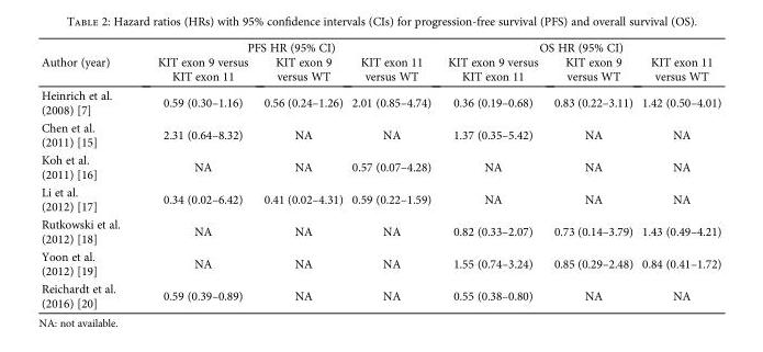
<table><thead><tr><td rowspan="2">Author (year)</td><td colspan="3">PFS HR (95% CI)</td><td colspan="3">OS HR (95% CI)</td></tr><tr><td>KIT exon 9 versus KIT exon 11</td><td>KIT exon 9 versus WT</td><td>KIT exon 11 versus WT</td><td>KIT exon 9 versus KIT exon 11</td><td>KIT exon 9 versus WT</td><td>KIT exon 11 versus WT</td></tr></thead><tbody><tr><td>Heinrich et al. (2008) [7]</td><td>0.59 (0.30–1.16)</td><td>0.56 (0.24–1.26)</td><td>2.01 (0.85–4.74)</td><td>0.36 (0.19–0.68)</td><td>0.83 (0.22–3.11)</td><td>1.42 (0.50–4.01)</td></tr><tr><td>Chen et al. (2011) [15]</td><td>2.31 (0.64–8.32)</td><td>NA</td><td>NA</td><td>1.37 (0.35–5.42)</td><td>NA</td><td>NA</td></tr><tr><td>Koh et al. (2011) [16]</td><td>NA</td><td>NA</td><td>0.57 (0.07–4.28)</td><td>NA</td><td>NA</td><td>NA</td></tr><tr><td>Li et al. (2012) [17]</td><td>0.34 (0.02–6.42)</td><td>0.41 (0.02–4.31)</td><td>0.59 (0.22–1.59)</td><td>NA</td><td>NA</td><td>NA</td></tr><tr><td>Rutkowski et al. (2012) [18]</td><td>NA</td><td>NA</td><td>NA</td><td>0.82 (0.33–2.07)</td><td>0.73 (0.14–3.79)</td><td>1.43 (0.49–4.21)</td></tr><tr><td>Yoon et al. (2012) [19]</td><td>NA</td><td>NA</td><td>NA</td><td>1.55 (0.74–3.24)</td><td>0.85 (0.29–2.48)</td><td>0.84 (0.41–1.72)</td></tr><tr><td>Reichardt et al. (2016) [20]</td><td>0.59 (0.39–0.89)</td><td>NA</td><td>NA</td><td>0.55 (0.38–0.80)</td><td>NA</td><td>NA</td></tr></tbody></table>